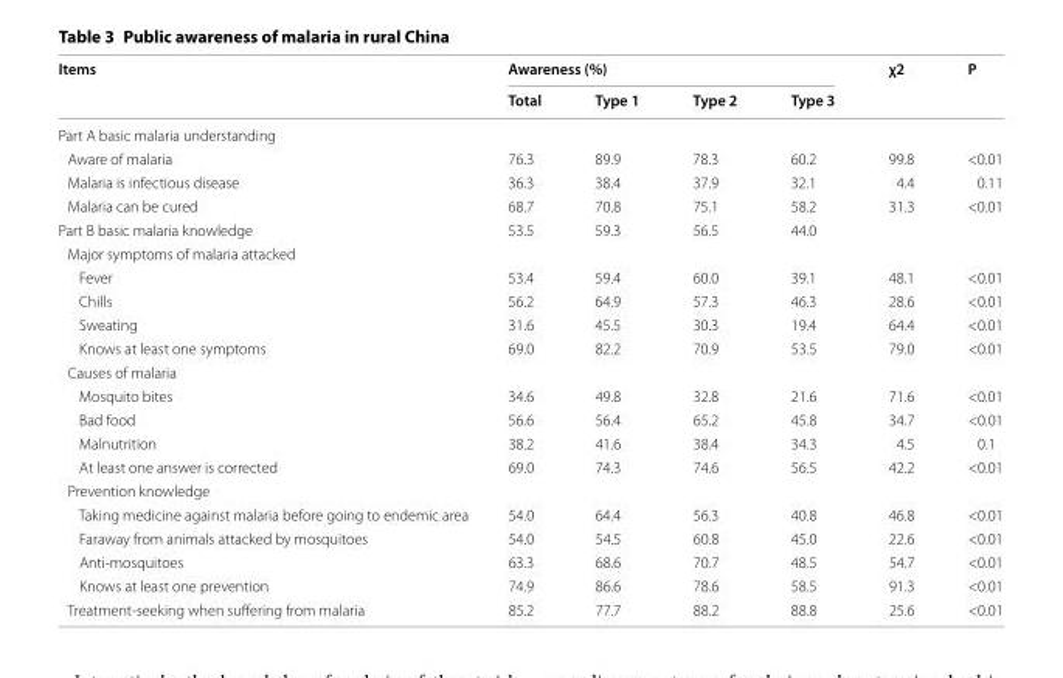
<table><thead><tr><td rowspan="2">Items</td><td colspan="4">Awareness (%)</td><td rowspan="2">χ2</td><td rowspan="2">P</td></tr><tr><td>Total</td><td>Type 1</td><td>Type 2</td><td>Type 3</td></tr></thead><tbody><tr><td colspan="7">Part A basic malaria understanding</td></tr><tr><td>Aware of malaria</td><td>76.3</td><td>89.9</td><td>78.3</td><td>60.2</td><td>99.8</td><td>&lt;0.01</td></tr><tr><td>Malaria is infectious disease</td><td>36.3</td><td>38.4</td><td>37.9</td><td>32.1</td><td>4.4</td><td>0.11</td></tr><tr><td>Malaria can be cured</td><td>68.7</td><td>70.8</td><td>75.1</td><td>58.2</td><td>31.3</td><td>&lt;0.01</td></tr><tr><td>Part B basic malaria knowledge</td><td>53.5</td><td>59.3</td><td>56.5</td><td>44.0</td><td></td><td></td></tr><tr><td colspan="7">Major symptoms of malaria attacked</td></tr><tr><td>Fever</td><td>53.4</td><td>59.4</td><td>60.0</td><td>39.1</td><td>48.1</td><td>&lt;0.01</td></tr><tr><td>Chills</td><td>56.2</td><td>64.9</td><td>57.3</td><td>46.3</td><td>28.6</td><td>&lt;0.01</td></tr><tr><td>Sweating</td><td>31.6</td><td>45.5</td><td>30.3</td><td>19.4</td><td>64.4</td><td>&lt;0.01</td></tr><tr><td>Knows at least one symptoms</td><td>69.0</td><td>82.2</td><td>70.9</td><td>53.5</td><td>79.0</td><td>&lt;0.01</td></tr><tr><td colspan="7">Causes of malaria</td></tr><tr><td>Mosquito bites</td><td>34.6</td><td>49.8</td><td>32.8</td><td>21.6</td><td>71.6</td><td>&lt;0.01</td></tr><tr><td>Bad food</td><td>56.6</td><td>56.4</td><td>65.2</td><td>45.8</td><td>34.7</td><td>&lt;0.01</td></tr><tr><td>Malnutrition</td><td>38.2</td><td>41.6</td><td>38.4</td><td>34.3</td><td>4.5</td><td>0.1</td></tr><tr><td>At least one answer is corrected</td><td>69.0</td><td>74.3</td><td>74.6</td><td>56.5</td><td>42.2</td><td>&lt;0.01</td></tr><tr><td colspan="7">Prevention knowledge</td></tr><tr><td>Taking medicine against malaria before going to endemic area</td><td>54.0</td><td>64.4</td><td>56.3</td><td>40.8</td><td>46.8</td><td>&lt;0.01</td></tr><tr><td>Faraway from animals attacked by mosquitoes</td><td>54.0</td><td>54.5</td><td>60.8</td><td>45.0</td><td>22.6</td><td>&lt;0.01</td></tr><tr><td>Anti-mosquitoes</td><td>63.3</td><td>68.6</td><td>70.7</td><td>48.5</td><td>54.7</td><td>&lt;0.01</td></tr><tr><td>Knows at least one prevention</td><td>74.9</td><td>86.6</td><td>78.6</td><td>58.5</td><td>91.3</td><td>&lt;0.01</td></tr><tr><td>Treatment-seeking when suffering from malaria</td><td>85.2</td><td>77.7</td><td>88.2</td><td>88.8</td><td>25.6</td><td>&lt;0.01</td></tr></tbody></table>